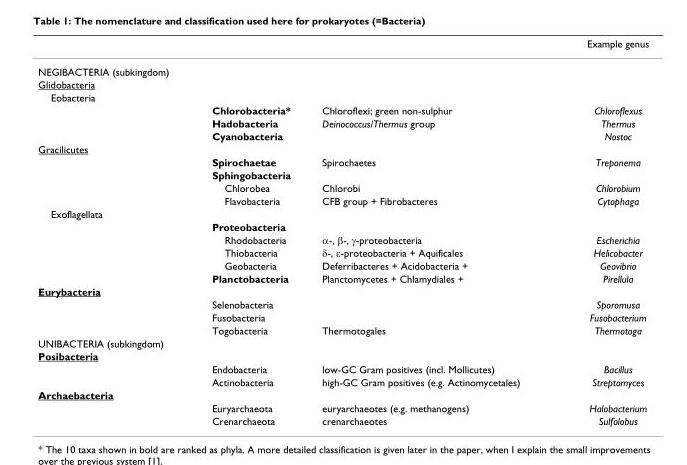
<table><thead><tr><td></td><td></td><td></td><td>Example genus</td></tr></thead><tbody><tr><td colspan="4">NEGIBACTERIA (subkingdom)</td></tr><tr><td colspan="4">Glidobacteria</td></tr><tr><td colspan="4">Eobacteria</td></tr><tr><td></td><td>Chlorobacteria*</td><td>Chloroflexi; green non-sulphur</td><td>Chloroflexus</td></tr><tr><td></td><td>Hadobacteria</td><td>Deinococcus/Thermus group</td><td>Thermus</td></tr><tr><td></td><td>Cyanobacteria</td><td></td><td>Nostoc</td></tr><tr><td colspan="4">Gracilicutes</td></tr><tr><td></td><td>Spirochaetae</td><td>Spirochaetes</td><td>Treponema</td></tr><tr><td></td><td>Sphingobacteria</td><td></td><td></td></tr><tr><td></td><td>Chlorobea</td><td>Chlorobi</td><td>Chlorobium</td></tr><tr><td></td><td>Flavobacteria</td><td>CFB group + Fibrobacteres</td><td>Cytophaga</td></tr><tr><td colspan="4">Exoflagellata</td></tr><tr><td></td><td>Proteobacteria</td><td></td><td></td></tr><tr><td></td><td>Rhodobacteria</td><td>α-, β-, γ-proteobacteria</td><td>Escherichia</td></tr><tr><td></td><td>Thiobacteria</td><td>δ-, ε-proteobacteria + Aquificales</td><td>Helicobacter</td></tr><tr><td></td><td>Geobacteria</td><td>Deferribacteres + Acidobacteria +</td><td>Geovibrio</td></tr><tr><td></td><td>Planctobacteria</td><td>Planctomycetes + Chlamydiales +</td><td>Pirellula</td></tr><tr><td colspan="4">Eurybacteria</td></tr><tr><td></td><td>Selenobacteria</td><td></td><td>Sporomusa</td></tr><tr><td></td><td>Fusobacteria</td><td></td><td>Fusobacterium</td></tr><tr><td></td><td>Togobacteria</td><td>Thermotogales</td><td>Thermotoga</td></tr><tr><td colspan="4">UNIBACTERIA (subkingdom)</td></tr><tr><td colspan="4">Posibacteria</td></tr><tr><td></td><td>Endobacteria</td><td>low-GC Gram positives (incl. Mollicutes)</td><td>Bacillus</td></tr><tr><td></td><td>Actinobacteria</td><td>high-GC Gram positives (e.g. Actinomycetales)</td><td>Streptomyces</td></tr><tr><td colspan="4">Archaebacteria</td></tr><tr><td></td><td>Euryarchaeota</td><td>euryarchaeotes (e.g. methanogens)</td><td>Halobacterium</td></tr><tr><td></td><td>Crenarchaeota</td><td>crenarchaeotes</td><td>Sulfolobus</td></tr></tbody></table>